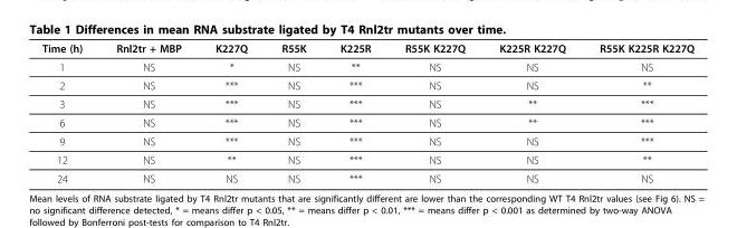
<table><thead><tr><td>Time (h)</td><td>Rnl2tr + MBP</td><td>K227Q</td><td>R55K</td><td>K225R</td><td>R55K K227Q</td><td>K225R K227Q</td><td>R55K K225R K227Q</td></tr></thead><tbody><tr><td>1</td><td>NS</td><td>*</td><td>NS</td><td>**</td><td>NS</td><td>NS</td><td>NS</td></tr><tr><td>2</td><td>NS</td><td>***</td><td>NS</td><td>***</td><td>NS</td><td>NS</td><td>**</td></tr><tr><td>3</td><td>NS</td><td>***</td><td>NS</td><td>***</td><td>NS</td><td>**</td><td>***</td></tr><tr><td>6</td><td>NS</td><td>***</td><td>NS</td><td>***</td><td>NS</td><td>**</td><td>***</td></tr><tr><td>9</td><td>NS</td><td>***</td><td>NS</td><td>***</td><td>NS</td><td>NS</td><td>***</td></tr><tr><td>12</td><td>NS</td><td>**</td><td>NS</td><td>***</td><td>NS</td><td>NS</td><td>**</td></tr><tr><td>24</td><td>NS</td><td>NS</td><td>NS</td><td>***</td><td>NS</td><td>NS</td><td>NS</td></tr></tbody></table>